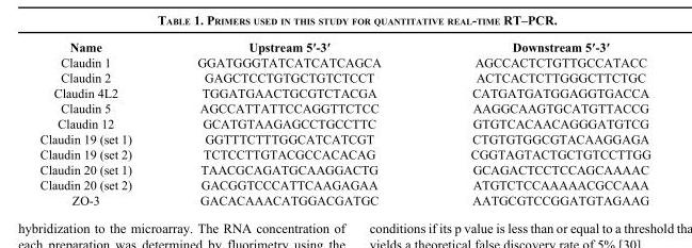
<table><thead><tr><td>Name</td><td>Upstream 5′-3′</td><td>Downstream 5′-3′</td></tr></thead><tbody><tr><td>Claudin 1</td><td>GGATGGGTATCATCATCAGCA</td><td>AGCCACTCTGTTGCCATACC</td></tr><tr><td>Claudin 2</td><td>GAGCTCCTGTGCTGTCTCCT</td><td>ACTCACTCTTGGGCTTCTGC</td></tr><tr><td>Claudin 4L2</td><td>TGGATGAACTGCGTCTACGA</td><td>CATGATGATGGAGGTGACCA</td></tr><tr><td>Claudin 5</td><td>AGCCATTATTCCAGGTTCTCC</td><td>AAGGCAAGTGCATGTTACCG</td></tr><tr><td>Claudin 12</td><td>GCATGTAAGAGCCTGCCTTC</td><td>GTGTCACAACAGGGATGTCG</td></tr><tr><td>Claudin 19 (set 1)</td><td>GGTTTCTTTGGCATCATCGT</td><td>CTGTGTGGCGTACAAGGAGA</td></tr><tr><td>Claudin 19 (set 2)</td><td>TCTCCTTGTACGCCACACAG</td><td>CGGTAGTACTGCTGTCCTTGG</td></tr><tr><td>Claudin 20 (set 1)</td><td>TAACGCAGATGCAAGGACTG</td><td>GCAGACTCCTCCAGCAAAAC</td></tr><tr><td>Claudin 20 (set 2)</td><td>GACGGTCCCATTCAAGAGAA</td><td>ATGTCTCCAAAAACGCCAAA</td></tr><tr><td>ZO-3</td><td>GACACAAACATGGACGATGC</td><td>AATGCGTCCGGATGTAGAAG</td></tr></tbody></table>